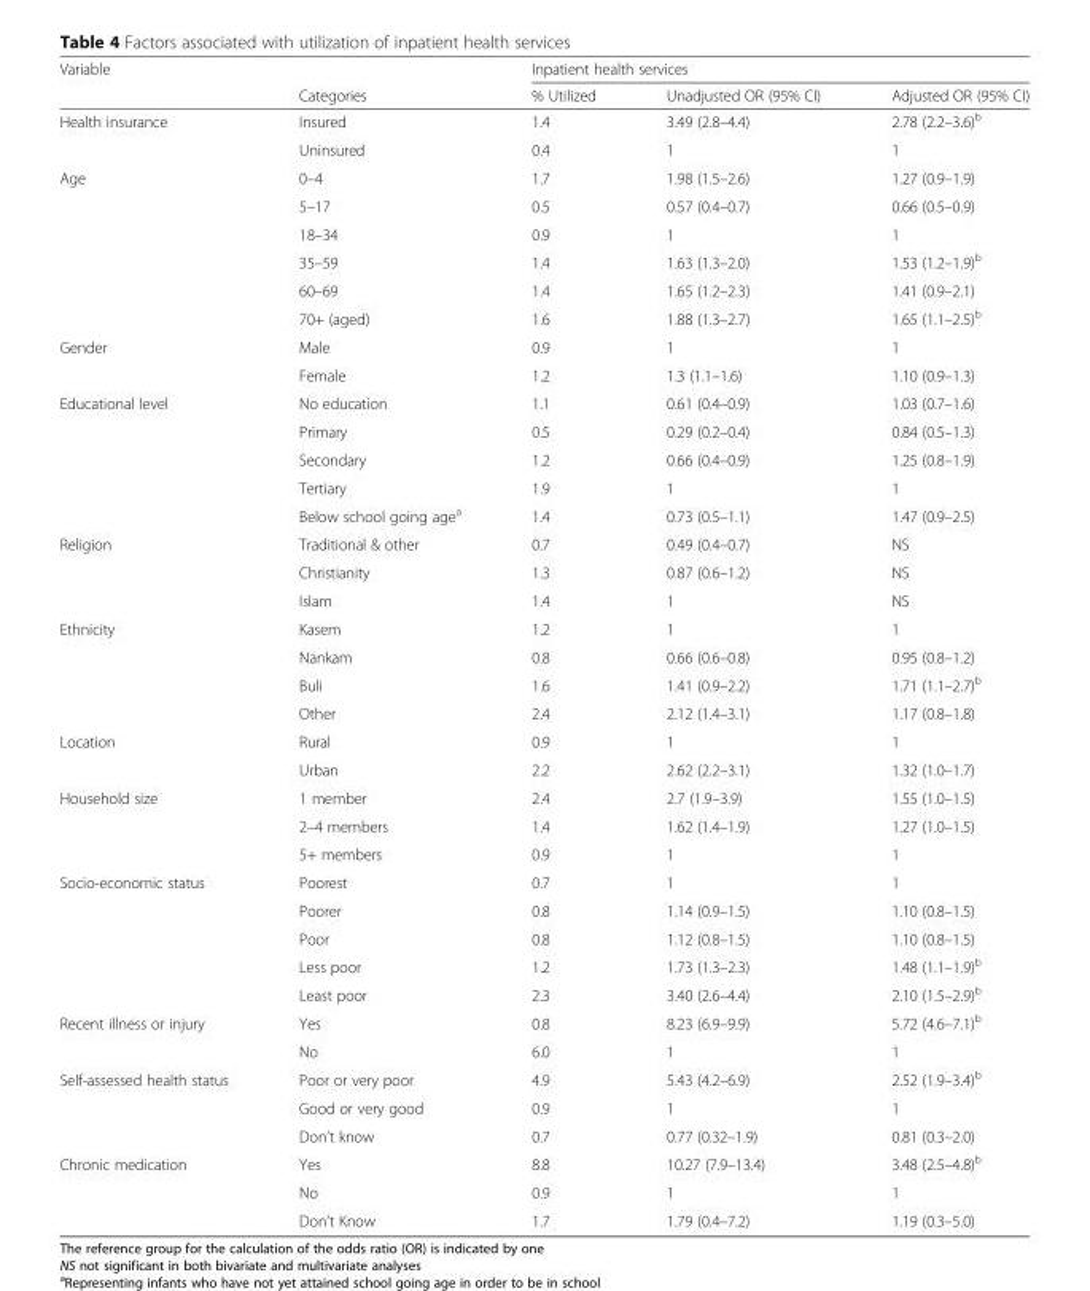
<table><thead><tr><td rowspan="2">Variable</td><td rowspan="2">Categories</td><td colspan="3">Inpatient health services</td></tr><tr><td>% Utilized</td><td>Unadjusted OR (95% CI)</td><td>Adjusted OR (95% CI)</td></tr></thead><tbody><tr><td rowspan="2">Health insurance</td><td>Insured</td><td>1.4</td><td>3.49 (2.8–4.4)</td><td>2.78 (2.2–3.6)<sup>b</sup></td></tr><tr><td>Uninsured</td><td>0.4</td><td>1</td><td>1</td></tr><tr><td rowspan="6">Age</td><td>0–4</td><td>1.7</td><td>1.98 (1.5–2.6)</td><td>1.27 (0.9–1.9)</td></tr><tr><td>5–17</td><td>0.5</td><td>0.57 (0.4–0.7)</td><td>0.66 (0.5–0.9)</td></tr><tr><td>18–34</td><td>0.9</td><td>1</td><td>1</td></tr><tr><td>35–59</td><td>1.4</td><td>1.63 (1.3–2.0)</td><td>1.53 (1.2–1.9)<sup>b</sup></td></tr><tr><td>60–69</td><td>1.4</td><td>1.65 (1.2–2.3)</td><td>1.41 (0.9–2.1)</td></tr><tr><td>70+ (aged)</td><td>1.6</td><td>1.88 (1.3–2.7)</td><td>1.65 (1.1–2.5)<sup>b</sup></td></tr><tr><td rowspan="2">Gender</td><td>Male</td><td>0.9</td><td>1</td><td>1</td></tr><tr><td>Female</td><td>1.2</td><td>1.3 (1.1–1.6)</td><td>1.10 (0.9–1.3)</td></tr><tr><td rowspan="5">Educational level</td><td>No education</td><td>1.1</td><td>0.61 (0.4–0.9)</td><td>1.03 (0.7–1.6)</td></tr><tr><td>Primary</td><td>0.5</td><td>0.29 (0.2–0.4)</td><td>0.84 (0.5–1.3)</td></tr><tr><td>Secondary</td><td>1.2</td><td>0.66 (0.4–0.9)</td><td>1.25 (0.8–1.9)</td></tr><tr><td>Tertiary</td><td>1.9</td><td>1</td><td>1</td></tr><tr><td>Below school going age<sup>a</sup></td><td>1.4</td><td>0.73 (0.5–1.1)</td><td>1.47 (0.9–2.5)</td></tr><tr><td rowspan="3">Religion</td><td>Traditional &amp; other</td><td>0.7</td><td>0.49 (0.4–0.7)</td><td>NS</td></tr><tr><td>Christianity</td><td>1.3</td><td>0.87 (0.6–1.2)</td><td>NS</td></tr><tr><td>Islam</td><td>1.4</td><td>1</td><td>NS</td></tr><tr><td rowspan="4">Ethnicity</td><td>Kasem</td><td>1.2</td><td>1</td><td>1</td></tr><tr><td>Nankam</td><td>0.8</td><td>0.66 (0.6–0.8)</td><td>0.95 (0.8–1.2)</td></tr><tr><td>Buli</td><td>1.6</td><td>1.41 (0.9–2.2)</td><td>1.71 (1.1–2.7)<sup>b</sup></td></tr><tr><td>Other</td><td>2.4</td><td>2.12 (1.4–3.1)</td><td>1.17 (0.8–1.8)</td></tr><tr><td rowspan="2">Location</td><td>Rural</td><td>0.9</td><td>1</td><td>1</td></tr><tr><td>Urban</td><td>2.2</td><td>2.62 (2.2–3.1)</td><td>1.32 (1.0–1.7)</td></tr><tr><td rowspan="3">Household size</td><td>1 member</td><td>2.4</td><td>2.7 (1.9–3.9)</td><td>1.55 (1.0–1.5)</td></tr><tr><td>2–4 members</td><td>1.4</td><td>1.62 (1.4–1.9)</td><td>1.27 (1.0–1.5)</td></tr><tr><td>5+ members</td><td>0.9</td><td>1</td><td>1</td></tr><tr><td rowspan="5">Socio-economic status</td><td>Poorest</td><td>0.7</td><td>1</td><td>1</td></tr><tr><td>Poorer</td><td>0.8</td><td>1.14 (0.9–1.5)</td><td>1.10 (0.8–1.5)</td></tr><tr><td>Poor</td><td>0.8</td><td>1.12 (0.8–1.5)</td><td>1.10 (0.8–1.5)</td></tr><tr><td>Less poor</td><td>1.2</td><td>1.73 (1.3–2.3)</td><td>1.48 (1.1–1.9)<sup>b</sup></td></tr><tr><td>Least poor</td><td>2.3</td><td>3.40 (2.6–4.4)</td><td>2.10 (1.5–2.9)<sup>b</sup></td></tr><tr><td rowspan="2">Recent illness or injury</td><td>Yes</td><td>0.8</td><td>8.23 (6.9–9.9)</td><td>5.72 (4.6–7.1)<sup>b</sup></td></tr><tr><td>No</td><td>6.0</td><td>1</td><td>1</td></tr><tr><td rowspan="3">Self-assessed health status</td><td>Poor or very poor</td><td>4.9</td><td>5.43 (4.2–6.9)</td><td>2.52 (1.9–3.4)<sup>b</sup></td></tr><tr><td>Good or very good</td><td>0.9</td><td>1</td><td>1</td></tr><tr><td>Don’t know</td><td>0.7</td><td>0.77 (0.32–1.9)</td><td>0.81 (0.3–2.0)</td></tr><tr><td rowspan="3">Chronic medication</td><td>Yes</td><td>8.8</td><td>10.27 (7.9–13.4)</td><td>3.48 (2.5–4.8)<sup>b</sup></td></tr><tr><td>No</td><td>0.9</td><td>1</td><td>1</td></tr><tr><td>Don’t Know</td><td>1.7</td><td>1.79 (0.4–7.2)</td><td>1.19 (0.3–5.0)</td></tr></tbody></table>